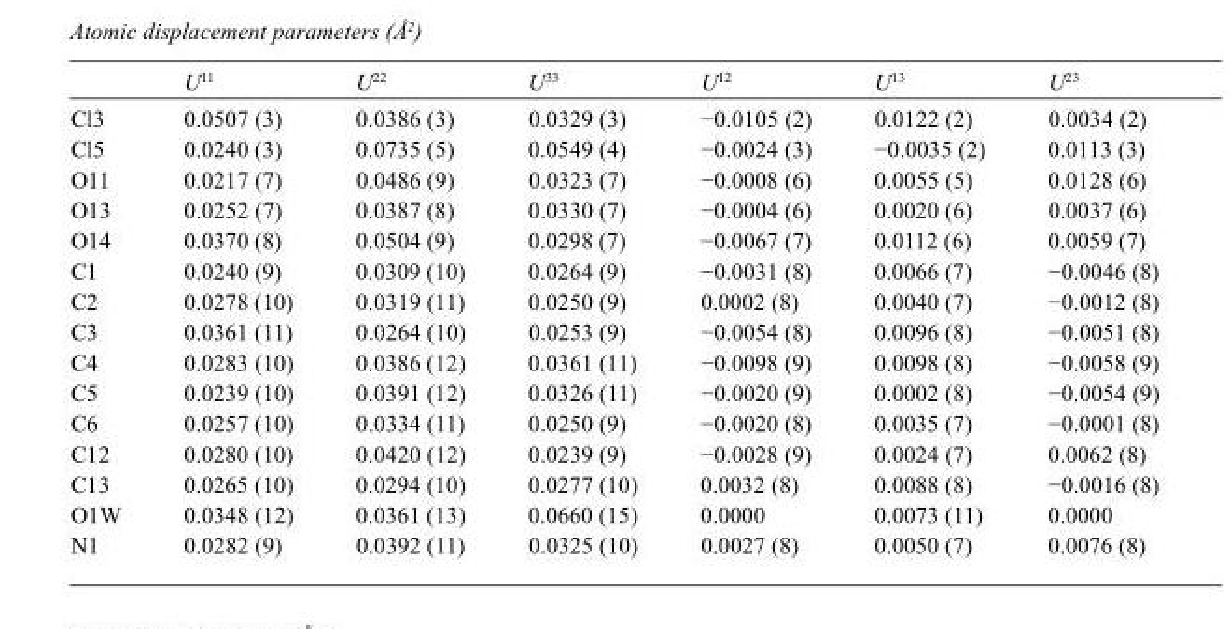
<table><thead><tr><td></td><td>U<sup>11</sup></td><td>U<sup>22</sup></td><td>U<sup>33</sup></td><td>U<sup>12</sup></td><td>U<sup>13</sup></td><td>U<sup>23</sup></td></tr></thead><tbody><tr><td>Cl3</td><td>0.0507 (3)</td><td>0.0386 (3)</td><td>0.0329 (3)</td><td>−0.0105 (2)</td><td>0.0122 (2)</td><td>0.0034 (2)</td></tr><tr><td>Cl5</td><td>0.0240 (3)</td><td>0.0735 (5)</td><td>0.0549 (4)</td><td>−0.0024 (3)</td><td>−0.0035 (2)</td><td>0.0113 (3)</td></tr><tr><td>O11</td><td>0.0217 (7)</td><td>0.0486 (9)</td><td>0.0323 (7)</td><td>−0.0008 (6)</td><td>0.0055 (5)</td><td>0.0128 (6)</td></tr><tr><td>O13</td><td>0.0252 (7)</td><td>0.0387 (8)</td><td>0.0330 (7)</td><td>−0.0004 (6)</td><td>0.0020 (6)</td><td>0.0037 (6)</td></tr><tr><td>O14</td><td>0.0370 (8)</td><td>0.0504 (9)</td><td>0.0298 (7)</td><td>−0.0067 (7)</td><td>0.0112 (6)</td><td>0.0059 (7)</td></tr><tr><td>C1</td><td>0.0240 (9)</td><td>0.0309 (10)</td><td>0.0264 (9)</td><td>−0.0031 (8)</td><td>0.0066 (7)</td><td>−0.0046 (8)</td></tr><tr><td>C2</td><td>0.0278 (10)</td><td>0.0319 (11)</td><td>0.0250 (9)</td><td>0.0002 (8)</td><td>0.0040 (7)</td><td>−0.0012 (8)</td></tr><tr><td>C3</td><td>0.0361 (11)</td><td>0.0264 (10)</td><td>0.0253 (9)</td><td>−0.0054 (8)</td><td>0.0096 (8)</td><td>−0.0051 (8)</td></tr><tr><td>C4</td><td>0.0283 (10)</td><td>0.0386 (12)</td><td>0.0361 (11)</td><td>−0.0098 (9)</td><td>0.0098 (8)</td><td>−0.0058 (9)</td></tr><tr><td>C5</td><td>0.0239 (10)</td><td>0.0391 (12)</td><td>0.0326 (11)</td><td>−0.0020 (9)</td><td>0.0002 (8)</td><td>−0.0054 (9)</td></tr><tr><td>C6</td><td>0.0257 (10)</td><td>0.0334 (11)</td><td>0.0250 (9)</td><td>−0.0020 (8)</td><td>0.0035 (7)</td><td>−0.0001 (8)</td></tr><tr><td>C12</td><td>0.0280 (10)</td><td>0.0420 (12)</td><td>0.0239 (9)</td><td>−0.0028 (9)</td><td>0.0024 (7)</td><td>0.0062 (8)</td></tr><tr><td>C13</td><td>0.0265 (10)</td><td>0.0294 (10)</td><td>0.0277 (10)</td><td>0.0032 (8)</td><td>0.0088 (8)</td><td>−0.0016 (8)</td></tr><tr><td>O1W</td><td>0.0348 (12)</td><td>0.0361 (13)</td><td>0.0660 (15)</td><td>0.0000</td><td>0.0073 (11)</td><td>0.0000</td></tr><tr><td>N1</td><td>0.0282 (9)</td><td>0.0392 (11)</td><td>0.0325 (10)</td><td>0.0027 (8)</td><td>0.0050 (7)</td><td>0.0076 (8)</td></tr></tbody></table>